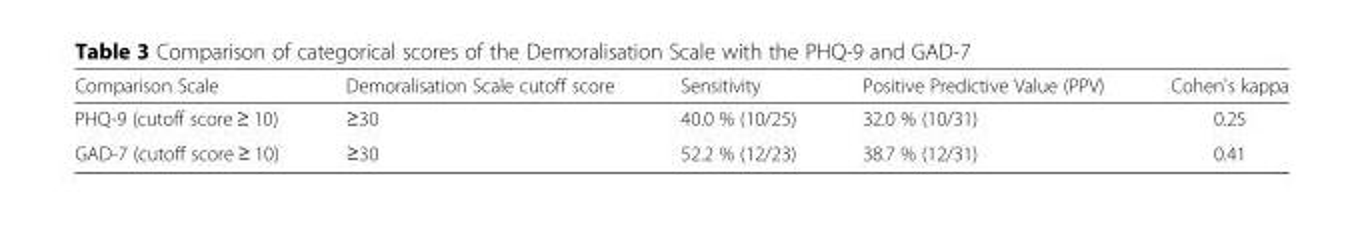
<table><thead><tr><td>Comparison Scale</td><td>Demoralisation Scale cutoff score</td><td>Sensitivity</td><td>Positive Predictive Value (PPV)</td><td>Cohen&#x27;s kappa</td></tr></thead><tbody><tr><td>PHQ-9 (cutoff score ≥ 10)</td><td>≥30</td><td>40.0 % (10/25)</td><td>32.0 % (10/31)</td><td>0.25</td></tr><tr><td>GAD-7 (cutoff score ≥ 10)</td><td>≥30</td><td>52.2 % (12/23)</td><td>38.7 % (12/31)</td><td>0.41</td></tr></tbody></table>